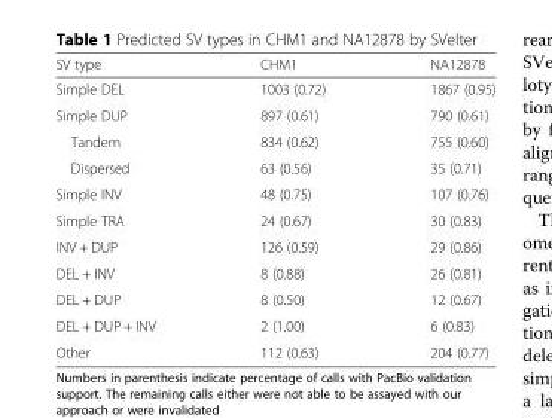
<table><thead><tr><td>SV type</td><td>CHM1</td><td>NA12878</td></tr></thead><tbody><tr><td>Simple DEL</td><td>1003 (0.72)</td><td>1867 (0.95)</td></tr><tr><td>Simple DUP</td><td>897 (0.61)</td><td>790 (0.61)</td></tr><tr><td>Tandem</td><td>834 (0.62)</td><td>755 (0.60)</td></tr><tr><td>Dispersed</td><td>63 (0.56)</td><td>35 (0.71)</td></tr><tr><td>Simple INV</td><td>48 (0.75)</td><td>107 (0.76)</td></tr><tr><td>Simple TRA</td><td>24 (0.67)</td><td>30 (0.83)</td></tr><tr><td>INV + DUP</td><td>126 (0.59)</td><td>29 (0.86)</td></tr><tr><td>DEL + INV</td><td>8 (0.88)</td><td>26 (0.81)</td></tr><tr><td>DEL + DUP</td><td>8 (0.50)</td><td>12 (0.67)</td></tr><tr><td>DEL + DUP + INV</td><td>2 (1.00)</td><td>6 (0.83)</td></tr><tr><td>Other</td><td>112 (0.63)</td><td>204 (0.77)</td></tr></tbody></table>